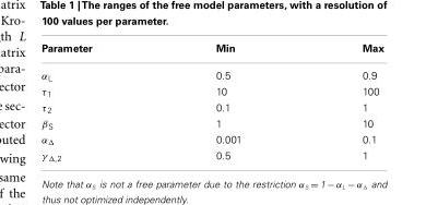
<table><thead><tr><td>Parameter</td><td>Min</td><td>Max</td></tr></thead><tbody><tr><td>α<sub>L</sub></td><td>0.5</td><td>0.9</td></tr><tr><td>τ <sub>1</sub></td><td>10</td><td>100</td></tr><tr><td>τ <sub>2</sub></td><td>0.1</td><td>1</td></tr><tr><td>β<sub>S</sub></td><td>1</td><td>10</td></tr><tr><td>α<sub>Δ</sub></td><td>0.001</td><td>0.1</td></tr><tr><td>γ <sub>Δ,2</sub></td><td>0.5</td><td>1</td></tr></tbody></table>